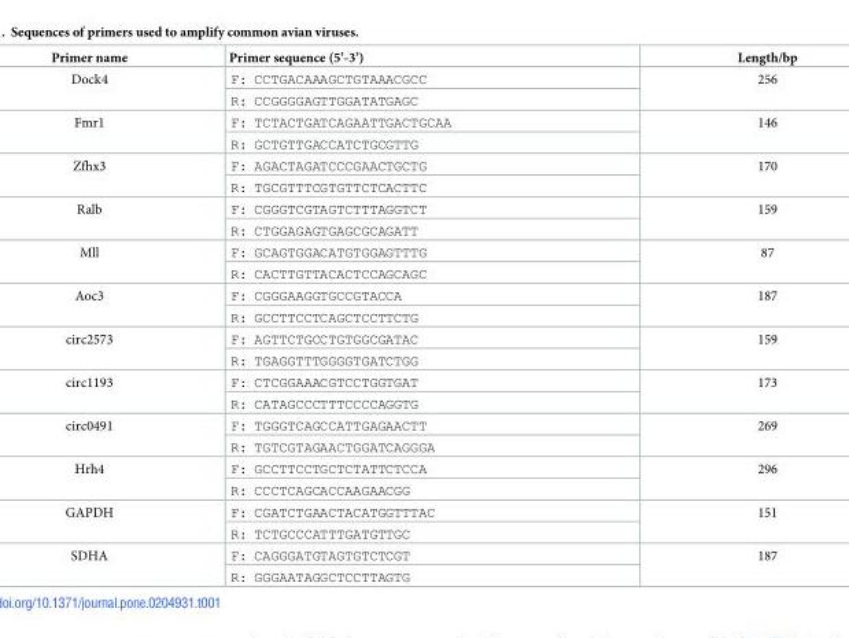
<table><thead><tr><td>Primer name</td><td>Primer sequence (5’-3’)</td><td>Length/bp</td></tr></thead><tbody><tr><td rowspan="2">Dock4</td><td>F: CCTGACAAAGCTGTAAACGCC</td><td rowspan="2">256</td></tr><tr><td>R: CCGGGGAGTTGGATATGAGC</td></tr><tr><td rowspan="2">Fmr1</td><td>F: TCTACTGATCAGAATTGACTGCAA</td><td rowspan="2">146</td></tr><tr><td>R: GCTGTTGACCATCTGCGTTG</td></tr><tr><td rowspan="2">Zfhx3</td><td>F: AGACTAGATCCCGAACTGCTG</td><td rowspan="2">170</td></tr><tr><td>R: TGCGTTTCGTGTTCTCACTTC</td></tr><tr><td rowspan="2">Ralb</td><td>F: CGGGTCGTAGTCTTTAGGTCT</td><td rowspan="2">159</td></tr><tr><td>R: CTGGAGAGTGAGCGCAGATT</td></tr><tr><td rowspan="2">Mll</td><td>F: GCAGTGGACATGTGGAGTTTG</td><td rowspan="2">87</td></tr><tr><td>R: CACTTGTTACACTCCAGCAGC</td></tr><tr><td rowspan="2">Aoc3</td><td>F: CGGGAAGGTGCCGTACCA</td><td rowspan="2">187</td></tr><tr><td>R: GCCTTCCTCAGCTCCTTCTG</td></tr><tr><td rowspan="2">circ2573</td><td>F: AGTTCTGCCTGTGGCGATAC</td><td rowspan="2">159</td></tr><tr><td>R: TGAGGTTTGGGGTGATCTGG</td></tr><tr><td rowspan="2">circ1193</td><td>F: CTCGGAAACGTCCTGGTGAT</td><td rowspan="2">173</td></tr><tr><td>R: CATAGCCCTTTCCCCAGGTG</td></tr><tr><td rowspan="2">circ0491</td><td>F: TGGGTCAGCCATTGAGAACTT</td><td rowspan="2">269</td></tr><tr><td>R: TGTCGTAGAACTGGATCAGGGA</td></tr><tr><td rowspan="2">Hrh4</td><td>F: GCCTTCCTGCTCTATTCTCCA</td><td rowspan="2">296</td></tr><tr><td>R: CCCTCAGCACCAAGAACGG</td></tr><tr><td rowspan="2">GAPDH</td><td>F: CGATCTGAACTACATGGTTTAC</td><td rowspan="2">151</td></tr><tr><td>R: TCTGCCCATTTGATGTTGC</td></tr><tr><td rowspan="2">SDHA</td><td>F: CAGGGATGTAGTGTCTCGT</td><td rowspan="2">187</td></tr><tr><td>R: GGGAATAGGCTCCTTAGTG</td></tr></tbody></table>